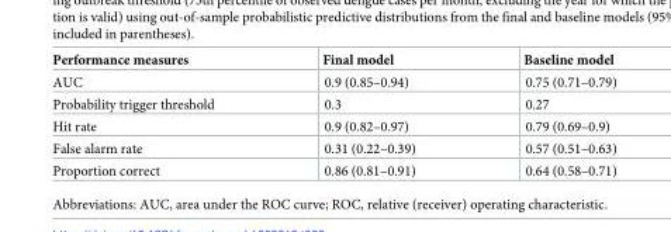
<table><thead><tr><td>Performance measures</td><td>Final model</td><td>Baseline model</td></tr></thead><tbody><tr><td>AUC</td><td>0.9 (0.85–0.94)</td><td>0.75 (0.71–0.79)</td></tr><tr><td>Probability trigger threshold</td><td>0.3</td><td>0.27</td></tr><tr><td>Hit rate</td><td>0.9 (0.82–0.97)</td><td>0.79 (0.69–0.9)</td></tr><tr><td>False alarm rate</td><td>0.31 (0.22–0.39)</td><td>0.57 (0.51–0.63)</td></tr><tr><td>Proportion correct</td><td>0.86 (0.81–0.91)</td><td>0.64 (0.58–0.71)</td></tr></tbody></table>